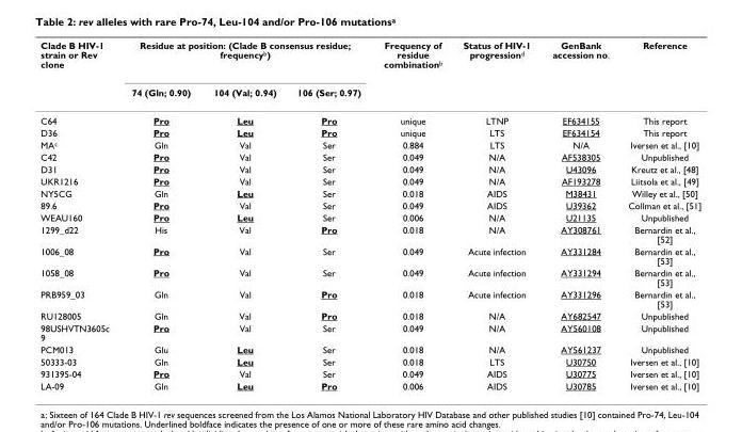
<table><thead><tr><td rowspan="2">Clade B HIV-1 strain or Rev clone</td><td colspan="3">Residue at position: (Clade B consensus residue; frequency<sup>b</sup>)</td><td rowspan="2">Frequency of residue combination<sup>b</sup></td><td rowspan="2">Status of HIV-1 progression<sup>d</sup></td><td rowspan="2">GenBank accession no.</td><td rowspan="2">Reference</td></tr><tr><td>74 (Gln; 0.90)</td><td>104 (Val; 0.94)</td><td>106 (Ser; 0.97)</td></tr></thead><tbody><tr><td>C64</td><td>Pro</td><td>Leu</td><td>Pro</td><td>unique</td><td>LTNP</td><td>EF634155</td><td>This report</td></tr><tr><td>D36</td><td>Pro</td><td>Leu</td><td>Pro</td><td>unique</td><td>LTS</td><td>EF634154</td><td>This report</td></tr><tr><td>MA<sup>c</sup></td><td>Gln</td><td>Val</td><td>Ser</td><td>0.884</td><td>LTS</td><td>N/A</td><td>Iversen et al., [10]</td></tr><tr><td>C42</td><td>Pro</td><td>Val</td><td>Ser</td><td>0.049</td><td>N/A</td><td>AF538305</td><td>Unpublished</td></tr><tr><td>D31</td><td>Pro</td><td>Val</td><td>Ser</td><td>0.049</td><td>N/A</td><td>U43096</td><td>Kreutz et al., [48]</td></tr><tr><td>UKR1216</td><td>Pro</td><td>Val</td><td>Ser</td><td>0.049</td><td>N/A</td><td>AF193278</td><td>Liitsola et al., [49]</td></tr><tr><td>NY5CG</td><td>Gln</td><td>Leu</td><td>Ser</td><td>0.018</td><td>AIDS</td><td>M38431</td><td>Willey et al., [50]</td></tr><tr><td>89.6</td><td>Pro</td><td>Val</td><td>Ser</td><td>0.049</td><td>AIDS</td><td>U39362</td><td>Collman et al., [51]</td></tr><tr><td>WEAU160</td><td>Pro</td><td>Leu</td><td>Ser</td><td>0.006</td><td>N/A</td><td>U21135</td><td>Unpublished</td></tr><tr><td>1299_d22</td><td>His</td><td>Val</td><td>Pro</td><td>0.018</td><td>N/A</td><td>AY308761</td><td>Bernardin et al., [52]</td></tr><tr><td>1006_08</td><td>Pro</td><td>Val</td><td>Ser</td><td>0.049</td><td>Acute infection</td><td>AY331284</td><td>Bernardin et al., [53]</td></tr><tr><td>1058_08</td><td>Pro</td><td>Val</td><td>Ser</td><td>0.049</td><td>Acute infection</td><td>AY331294</td><td>Bernardin et al., [53]</td></tr><tr><td>PRB959_03</td><td>Gln</td><td>Val</td><td>Pro</td><td>0.018</td><td>Acute infection</td><td>AY331296</td><td>Bernardin et al., [53]</td></tr><tr><td>RU128005</td><td>Gln</td><td>Val</td><td>Pro</td><td>0.018</td><td>N/A</td><td>AY682547</td><td>Unpublished</td></tr><tr><td>98USHVTN3605c 9</td><td>Pro</td><td>Val</td><td>Ser</td><td>0.049</td><td>N/A</td><td>AY560108</td><td>Unpublished</td></tr><tr><td>PCM013</td><td>Glu</td><td>Leu</td><td>Ser</td><td>0.018</td><td>N/A</td><td>AY561237</td><td>Unpublished</td></tr><tr><td>50333-03</td><td>Gln</td><td>Leu</td><td>Ser</td><td>0.018</td><td>LTS</td><td>U30750</td><td>Iversen et al., [10]</td></tr><tr><td>931395-04</td><td>Pro</td><td>Val</td><td>Ser</td><td>0.049</td><td>AIDS</td><td>U30775</td><td>Iversen et al., [10]</td></tr><tr><td>LA-09</td><td>Gln</td><td>Leu</td><td>Pro</td><td>0.006</td><td>AIDS</td><td>U30785</td><td>Iversen et al., [10]</td></tr></tbody></table>